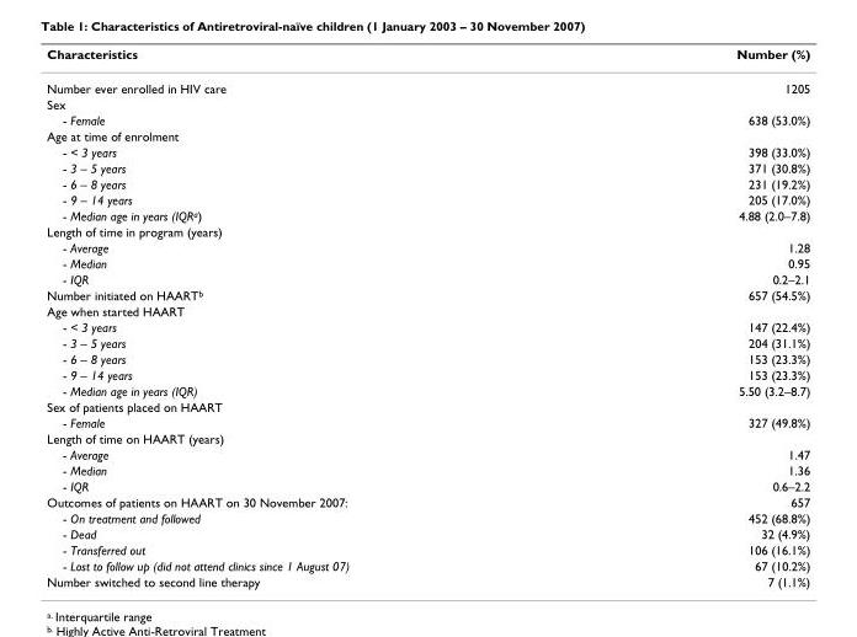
<table><thead><tr><td>Characteristics</td><td>Number (%)</td></tr></thead><tbody><tr><td>Number ever enrolled in HIV care</td><td>1205</td></tr><tr><td colspan="2">Sex</td></tr><tr><td>- Female</td><td>638 (53.0%)</td></tr><tr><td colspan="2">Age at time of enrolment</td></tr><tr><td>- &lt; 3 years</td><td>398 (33.0%)</td></tr><tr><td>- 3 – 5 years</td><td>371 (30.8%)</td></tr><tr><td>- 6 – 8 years</td><td>231 (19.2%)</td></tr><tr><td>- 9 – 14 years</td><td>205 (17.0%)</td></tr><tr><td>- Median age in years (IQR<sup>a</sup>)</td><td>4.88 (2.0–7.8)</td></tr><tr><td colspan="2">Length of time in program (years)</td></tr><tr><td>- Average</td><td>1.28</td></tr><tr><td>- Median</td><td>0.95</td></tr><tr><td>- IQR</td><td>0.2–2.1</td></tr><tr><td>Number initiated on HAART<sup>b</sup></td><td>657 (54.5%)</td></tr><tr><td colspan="2">Age when started HAART</td></tr><tr><td>- &lt; 3 years</td><td>147 (22.4%)</td></tr><tr><td>- 3 – 5 years</td><td>204 (31.1%)</td></tr><tr><td>- 6 – 8 years</td><td>153 (23.3%)</td></tr><tr><td>- 9 – 14 years</td><td>153 (23.3%)</td></tr><tr><td>- Median age in years (IQR)</td><td>5.50 (3.2–8.7)</td></tr><tr><td colspan="2">Sex of patients placed on HAART</td></tr><tr><td>- Female</td><td>327 (49.8%)</td></tr><tr><td colspan="2">Length of time on HAART (years)</td></tr><tr><td>- Average</td><td>1.47</td></tr><tr><td>- Median</td><td>1.36</td></tr><tr><td>- IQR</td><td>0.6–2.2</td></tr><tr><td>Outcomes of patients on HAART on 30 November 2007:</td><td>657</td></tr><tr><td>- On treatment and followed</td><td>452 (68.8%)</td></tr><tr><td>- Dead</td><td>32 (4.9%)</td></tr><tr><td>- Transferred out</td><td>106 (16.1%)</td></tr><tr><td>- Lost to follow up (did not attend clinics since 1 August 07)</td><td>67 (10.2%)</td></tr><tr><td>Number switched to second line therapy</td><td>7 (1.1%)</td></tr></tbody></table>